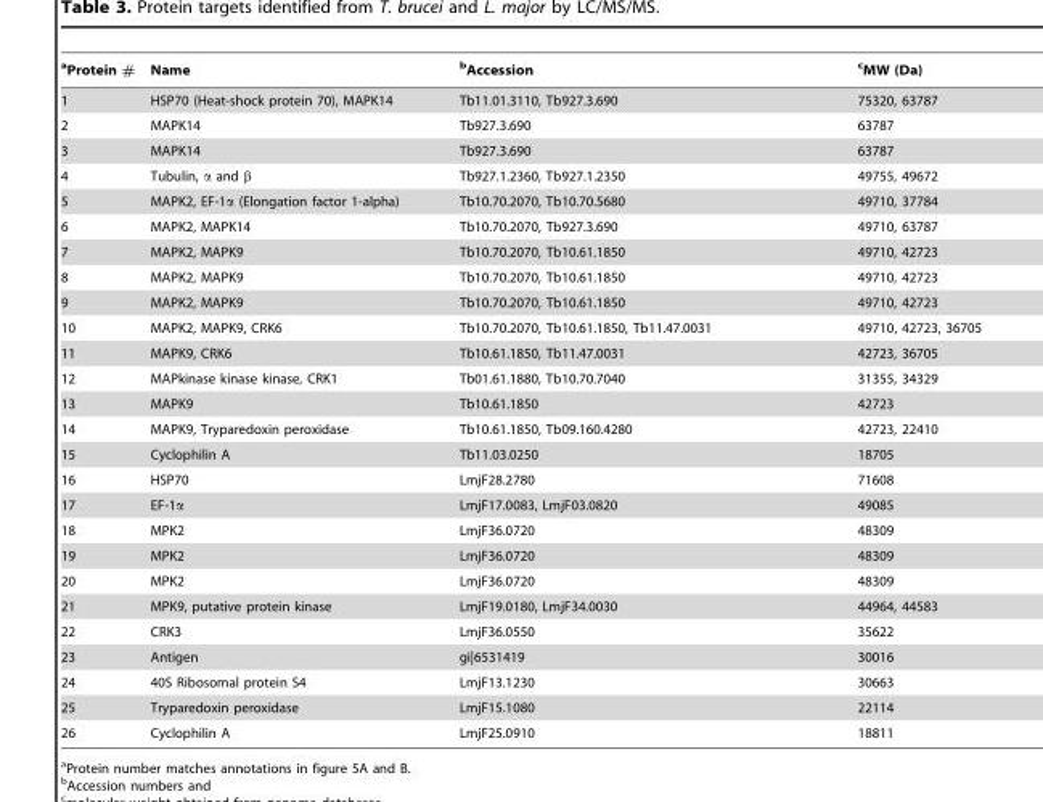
<table><thead><tr><td>aProtein #</td><td>Name</td><td>bAccession</td><td>cMW (Da)</td></tr></thead><tbody><tr><td>1</td><td>HSP70 (Heat-shock protein 70), MAPK14</td><td>Tb11.01.3110, Tb927.3.690</td><td>75320, 63787</td></tr><tr><td>2</td><td>MAPK14</td><td>Tb927.3.690</td><td>63787</td></tr><tr><td>3</td><td>MAPK14</td><td>Tb927.3.690</td><td>63787</td></tr><tr><td>4</td><td>Tubulin, α and β</td><td>Tb927.1.2360, Tb927.1.2350</td><td>49755, 49672</td></tr><tr><td>5</td><td>MAPK2, EF-1α (Elongation factor 1-alpha)</td><td>Tb10.70.2070, Tb10.70.5680</td><td>49710, 37784</td></tr><tr><td>6</td><td>MAPK2, MAPK14</td><td>Tb10.70.2070, Tb927.3.690</td><td>49710, 63787</td></tr><tr><td>7</td><td>MAPK2, MAPK9</td><td>Tb10.70.2070, Tb10.61.1850</td><td>49710, 42723</td></tr><tr><td>8</td><td>MAPK2, MAPK9</td><td>Tb10.70.2070, Tb10.61.1850</td><td>49710, 42723</td></tr><tr><td>9</td><td>MAPK2, MAPK9</td><td>Tb10.70.2070, Tb10.61.1850</td><td>49710, 42723</td></tr><tr><td>10</td><td>MAPK2, MAPK9, CRK6</td><td>Tb10.70.2070, Tb10.61.1850, Tb11.47.0031</td><td>49710, 42723, 36705</td></tr><tr><td>11</td><td>MAPK9, CRK6</td><td>Tb10.61.1850, Tb11.47.0031</td><td>42723, 36705</td></tr><tr><td>12</td><td>MAPkinase kinase kinase, CRK1</td><td>Tb01.61.1880, Tb10.70.7040</td><td>31355, 34329</td></tr><tr><td>13</td><td>MAPK9</td><td>Tb10.61.1850</td><td>42723</td></tr><tr><td>14</td><td>MAPK9, Tryparedoxin peroxidase</td><td>Tb10.61.1850, Tb09.160.4280</td><td>42723, 22410</td></tr><tr><td>15</td><td>Cyclophilin A</td><td>Tb11.03.0250</td><td>18705</td></tr><tr><td>16</td><td>HSP70</td><td>LmjF28.2780</td><td>71608</td></tr><tr><td>17</td><td>EF-1α</td><td>LmjF17.0083, LmjF03.0820</td><td>49085</td></tr><tr><td>18</td><td>MPK2</td><td>LmjF36.0720</td><td>48309</td></tr><tr><td>19</td><td>MPK2</td><td>LmjF36.0720</td><td>48309</td></tr><tr><td>20</td><td>MPK2</td><td>LmjF36.0720</td><td>48309</td></tr><tr><td>21</td><td>MPK9, putative protein kinase</td><td>LmjF19.0180, LmjF34.0030</td><td>44964, 44583</td></tr><tr><td>22</td><td>CRK3</td><td>LmjF36.0550</td><td>35622</td></tr><tr><td>23</td><td>Antigen</td><td>gi|6531419</td><td>30016</td></tr><tr><td>24</td><td>40S Ribosomal protein S4</td><td>LmjF13.1230</td><td>30663</td></tr><tr><td>25</td><td>Tryparedoxin peroxidase</td><td>LmjF15.1080</td><td>22114</td></tr><tr><td>26</td><td>Cyclophilin A</td><td>LmjF25.0910</td><td>18811</td></tr></tbody></table>